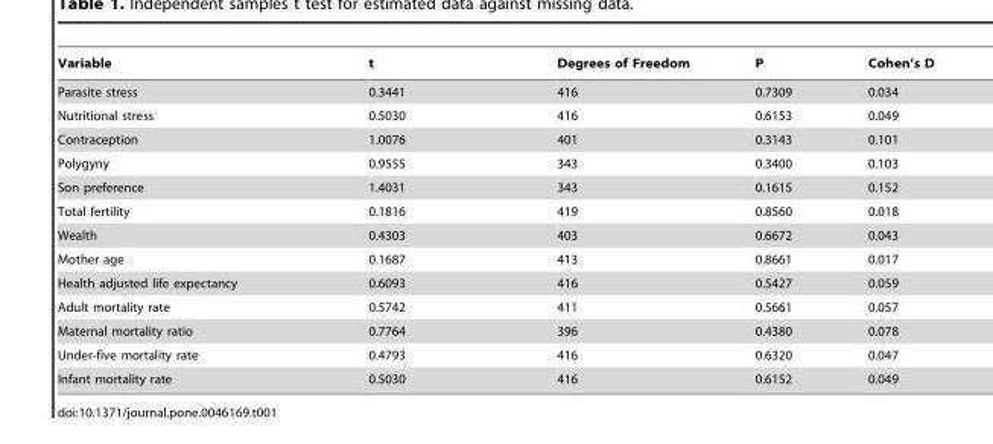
<table><thead><tr><td>Variable</td><td>t</td><td>Degrees of Freedom</td><td>P</td><td>Cohen’s D</td></tr></thead><tbody><tr><td>Parasite stress</td><td>0.3441</td><td>416</td><td>0.7309</td><td>0.034</td></tr><tr><td>Nutritional stress</td><td>0.5030</td><td>416</td><td>0.6153</td><td>0.049</td></tr><tr><td>Contraception</td><td>1.0076</td><td>401</td><td>0.3143</td><td>0.101</td></tr><tr><td>Polygyny</td><td>0.9555</td><td>343</td><td>0.3400</td><td>0.103</td></tr><tr><td>Son preference</td><td>1.4031</td><td>343</td><td>0.1615</td><td>0.152</td></tr><tr><td>Total fertility</td><td>0.1816</td><td>419</td><td>0.8560</td><td>0.018</td></tr><tr><td>Wealth</td><td>0.4303</td><td>403</td><td>0.6672</td><td>0.043</td></tr><tr><td>Mother age</td><td>0.1687</td><td>413</td><td>0.8661</td><td>0.017</td></tr><tr><td>Health adjusted life expectancy</td><td>0.6093</td><td>416</td><td>0.5427</td><td>0.059</td></tr><tr><td>Adult mortality rate</td><td>0.5742</td><td>411</td><td>0.5661</td><td>0.057</td></tr><tr><td>Maternal mortality ratio</td><td>0.7764</td><td>396</td><td>0.4380</td><td>0.078</td></tr><tr><td>Under-five mortality rate</td><td>0.4793</td><td>416</td><td>0.6320</td><td>0.047</td></tr><tr><td>Infant mortality rate</td><td>0.5030</td><td>416</td><td>0.6152</td><td>0.049</td></tr></tbody></table>